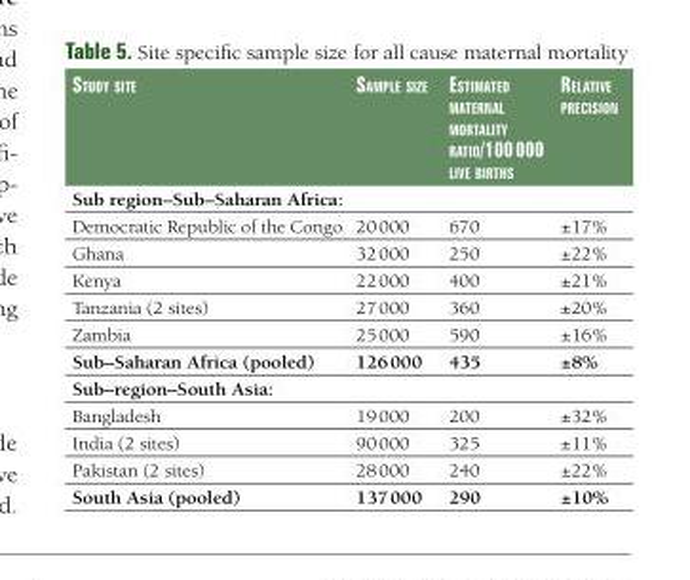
<table><thead><tr><td>Study Site</td><td>SamPle Size</td><td>eStimated maternal mortality ratio/100 000 live birthS</td><td>relative PreciSion</td></tr></thead><tbody><tr><td colspan="4">Sub region–Sub–Saharan Africa:</td></tr><tr><td>Democratic Republic of the Congo</td><td>20 000</td><td>670</td><td>±17%</td></tr><tr><td>Ghana</td><td>32 000</td><td>250</td><td>±22%</td></tr><tr><td>Kenya</td><td>22 000</td><td>400</td><td>±21%</td></tr><tr><td>Tanzania (2 sites)</td><td>27 000</td><td>360</td><td>±20%</td></tr><tr><td>Zambia</td><td>25 000</td><td>590</td><td>±16%</td></tr><tr><td>Sub–Saharan Africa (pooled)</td><td>126 000</td><td>435</td><td>±8%</td></tr><tr><td colspan="4">Sub–region–South Asia:</td></tr><tr><td>Bangladesh</td><td>19 000</td><td>200</td><td>±32%</td></tr><tr><td>India (2 sites)</td><td>90 000</td><td>325</td><td>±11%</td></tr><tr><td>Pakistan (2 sites)</td><td>28 000</td><td>240</td><td>±22%</td></tr><tr><td>South Asia (pooled)</td><td>137 000</td><td>290</td><td>±10%</td></tr></tbody></table>